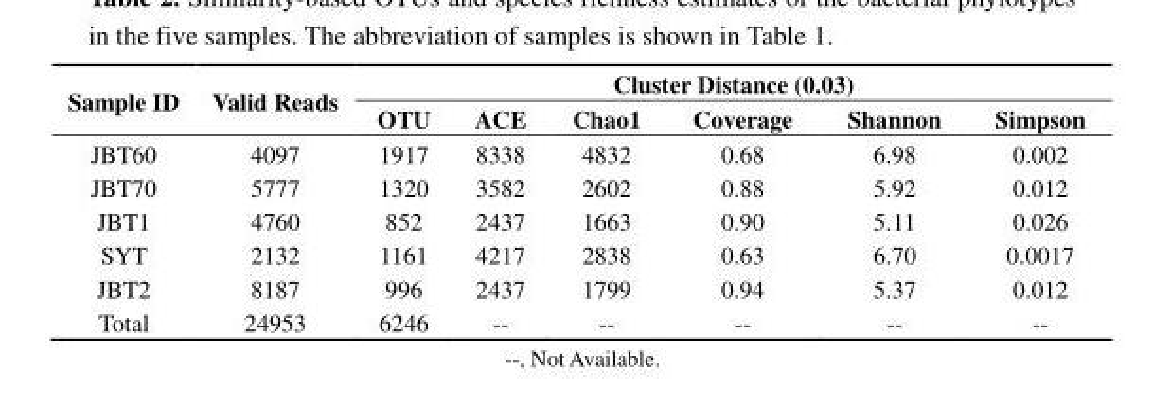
<table><thead><tr><td rowspan="2">Sample ID</td><td rowspan="2">Valid Reads</td><td colspan="6">Cluster Distance (0.03)</td></tr><tr><td>OTU</td><td>ACE</td><td>Chao1</td><td>Coverage</td><td>Shannon</td><td>Simpson</td></tr></thead><tbody><tr><td>JBT60</td><td>4097</td><td>1917</td><td>8338</td><td>4832</td><td>0.68</td><td>6.98</td><td>0.002</td></tr><tr><td>JBT70</td><td>5777</td><td>1320</td><td>3582</td><td>2602</td><td>0.88</td><td>5.92</td><td>0.012</td></tr><tr><td>JBT1</td><td>4760</td><td>852</td><td>2437</td><td>1663</td><td>0.90</td><td>5.11</td><td>0.026</td></tr><tr><td>SYT</td><td>2132</td><td>1161</td><td>4217</td><td>2838</td><td>0.63</td><td>6.70</td><td>0.0017</td></tr><tr><td>JBT2</td><td>8187</td><td>996</td><td>2437</td><td>1799</td><td>0.94</td><td>5.37</td><td>0.012</td></tr><tr><td>Total</td><td>24953</td><td>6246</td><td>--</td><td>--</td><td>--</td><td>--</td><td>--</td></tr></tbody></table>